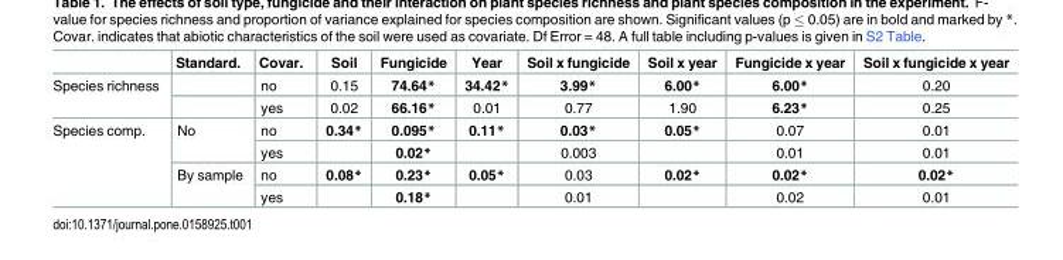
<table><thead><tr><td></td><td>Standard.</td><td>Covar.</td><td>Soil</td><td>Fungicide</td><td>Year</td><td>Soil x fungicide</td><td>Soil x year</td><td>Fungicide x year</td><td>Soil x fungicide x year</td></tr></thead><tbody><tr><td rowspan="2">Species richness</td><td></td><td>no</td><td>0.15</td><td>74.64*</td><td>34.42*</td><td>3.99*</td><td>6.00*</td><td>6.00*</td><td>0.20</td></tr><tr><td></td><td>yes</td><td>0.02</td><td>66.16*</td><td>0.01</td><td>0.77</td><td>1.90</td><td>6.23*</td><td>0.25</td></tr><tr><td rowspan="4">Species comp.</td><td rowspan="2">No</td><td>no</td><td>0.34*</td><td>0.095*</td><td>0.11*</td><td>0.03*</td><td>0.05*</td><td>0.07</td><td>0.01</td></tr><tr><td>yes</td><td></td><td>0.02*</td><td></td><td>0.003</td><td></td><td>0.01</td><td>0.01</td></tr><tr><td rowspan="2">By sample</td><td>no</td><td>0.08*</td><td>0.23*</td><td>0.05*</td><td>0.03</td><td>0.02*</td><td>0.02*</td><td>0.02*</td></tr><tr><td>yes</td><td></td><td>0.18*</td><td></td><td>0.01</td><td></td><td>0.02</td><td>0.01</td></tr></tbody></table>